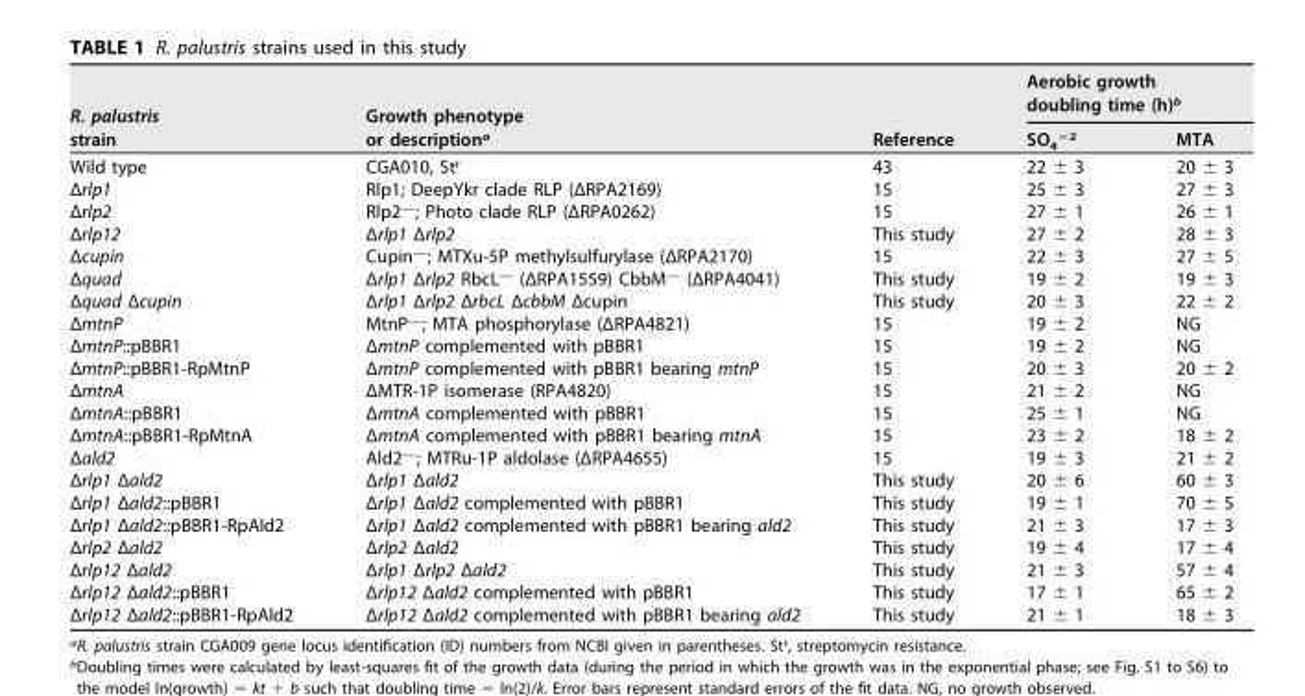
<table><thead><tr><td rowspan="2">R. palustris strain</td><td rowspan="2">Growth phenotype or description<sup>a</sup></td><td rowspan="2">Reference</td><td colspan="2">Aerobic growth doubling time (h)<sup>b</sup></td></tr><tr><td>SO<sub>4</sub><sup>−2</sup></td><td>MTA</td></tr></thead><tbody><tr><td>Wild type</td><td>CGA010, St<sup>r</sup></td><td>43</td><td>22 ± 3</td><td>20 ± 3</td></tr><tr><td>Δrlp1</td><td>Rlp1; DeepYkr clade RLP (ΔRPA2169)</td><td>15</td><td>25 ± 3</td><td>27 ± 3</td></tr><tr><td>Δrlp2</td><td>Rlp2<sup>—</sup>; Photo clade RLP (ΔRPA0262)</td><td>15</td><td>27 ± 1</td><td>26 ± 1</td></tr><tr><td>Δrlp12</td><td>Δrlp1 Δrlp2</td><td>This study</td><td>27 ± 2</td><td>28 ± 3</td></tr><tr><td>Δcupin</td><td>Cupin<sup>—</sup>; MTXu-5P methylsulfurylase (ΔRPA2170)</td><td>15</td><td>22 ± 3</td><td>27 ± 5</td></tr><tr><td>Δquad</td><td>Δrlp1 Δrlp2 RbcL<sup>—</sup> (ΔRPA1559) CbbM<sup>—</sup> (ΔRPA4041)</td><td>This study</td><td>19 ± 2</td><td>19 ± 3</td></tr><tr><td>Δquad Δcupin</td><td>Δrlp1 Δrlp2 ΔrbcL ΔcbbM Δcupin</td><td>This study</td><td>20 ± 3</td><td>22 ± 2</td></tr><tr><td>ΔmtnP</td><td>MtnP<sup>—</sup>; MTA phosphorylase (ΔRPA4821)</td><td>15</td><td>19 ± 2</td><td>NG</td></tr><tr><td>ΔmtnP::pBBR1</td><td>ΔmtnP complemented with pBBR1</td><td>15</td><td>19 ± 2</td><td>NG</td></tr><tr><td>ΔmtnP::pBBR1-RpMtnP</td><td>ΔmtnP complemented with pBBR1 bearing mtnP</td><td>15</td><td>20 ± 3</td><td>20 ± 2</td></tr><tr><td>ΔmtnA</td><td>ΔMTR-1P isomerase (RPA4820)</td><td>15</td><td>21 ± 2</td><td>NG</td></tr><tr><td>ΔmtnA::pBBR1</td><td>ΔmtnA complemented with pBBR1</td><td>15</td><td>25 ± 1</td><td>NG</td></tr><tr><td>ΔmtnA::pBBR1-RpMtnA</td><td>ΔmtnA complemented with pBBR1 bearing mtnA</td><td>15</td><td>23 ± 2</td><td>18 ± 2</td></tr><tr><td>Δald2</td><td>Ald2<sup>—</sup>; MTRu-1P aldolase (ΔRPA4655)</td><td>15</td><td>19 ± 3</td><td>21 ± 2</td></tr><tr><td>Δrlp1 Δald2</td><td>Δrlp1 Δald2</td><td>This study</td><td>20 ± 6</td><td>60 ± 3</td></tr><tr><td>Δrlp1 Δald2::pBBR1</td><td>Δrlp1 Δald2 complemented with pBBR1</td><td>This study</td><td>19 ± 1</td><td>70 ± 5</td></tr><tr><td>Δrlp1 Δald2::pBBR1-RpAld2</td><td>Δrlp1 Δald2 complemented with pBBR1 bearing ald2</td><td>This study</td><td>21 ± 3</td><td>17 ± 3</td></tr><tr><td>Δrlp2 Δald2</td><td>Δrlp2 Δald2</td><td>This study</td><td>19 ± 4</td><td>17 ± 4</td></tr><tr><td>Δrlp12 Δald2</td><td>Δrlp1 Δrlp2 Δald2</td><td>This study</td><td>21 ± 3</td><td>57 ± 4</td></tr><tr><td>Δrlp12 Δald2::pBBR1</td><td>Δrlp12 Δald2 complemented with pBBR1</td><td>This study</td><td>17 ± 1</td><td>65 ± 2</td></tr><tr><td>Δrlp12 Δald2::pBBR1-RpAld2</td><td>Δrlp12 Δald2 complemented with pBBR1 bearing ald2</td><td>This study</td><td>21 ± 1</td><td>18 ± 3</td></tr></tbody></table>